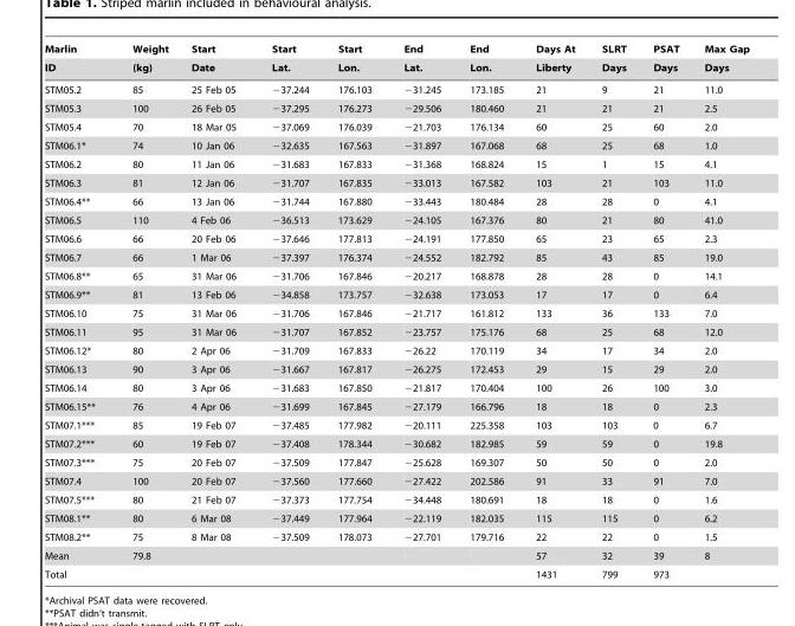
<table><thead><tr><td rowspan="2">Marlin ID</td><td rowspan="2">Weight (kg)</td><td rowspan="2">Start Date</td><td rowspan="2">Start Lat.</td><td rowspan="2">Start Lon.</td><td rowspan="2">End Lat.</td><td rowspan="2">End Lon.</td><td rowspan="2">Days At Liberty</td><td rowspan="2">SLRT Days</td><td rowspan="2">PSAT Days</td><td rowspan="2">Max Gap Days</td></tr><tr></tr></thead><tbody><tr><td>STM05.2</td><td>85</td><td>25 Feb 05</td><td>−37.244</td><td>176.103</td><td>−31.245</td><td>173.185</td><td>21</td><td>9</td><td>21</td><td>11.0</td></tr><tr><td>STM05.3</td><td>100</td><td>26 Feb 05</td><td>−37.295</td><td>176.273</td><td>−29.506</td><td>180.460</td><td>21</td><td>21</td><td>21</td><td>2.5</td></tr><tr><td>STM05.4</td><td>70</td><td>18 Mar 05</td><td>−37.069</td><td>176.039</td><td>−21.703</td><td>176.134</td><td>60</td><td>25</td><td>60</td><td>2.0</td></tr><tr><td>STM06.1*</td><td>74</td><td>10 Jan 06</td><td>−32.635</td><td>167.563</td><td>−31.897</td><td>167.068</td><td>68</td><td>25</td><td>68</td><td>1.0</td></tr><tr><td>STM06.2</td><td>80</td><td>11 Jan 06</td><td>−31.683</td><td>167.833</td><td>−31.368</td><td>168.824</td><td>15</td><td>1</td><td>15</td><td>4.1</td></tr><tr><td>STM06.3</td><td>81</td><td>12 Jan 06</td><td>−31.707</td><td>167.835</td><td>−33.013</td><td>167.582</td><td>103</td><td>21</td><td>103</td><td>11.0</td></tr><tr><td>STM06.4**</td><td>66</td><td>13 Jan 06</td><td>−31.744</td><td>167.880</td><td>−33.443</td><td>180.484</td><td>28</td><td>28</td><td>0</td><td>4.1</td></tr><tr><td>STM06.5</td><td>110</td><td>4 Feb 06</td><td>−36.513</td><td>173.629</td><td>−24.105</td><td>167.376</td><td>80</td><td>21</td><td>80</td><td>41.0</td></tr><tr><td>STM06.6</td><td>66</td><td>20 Feb 06</td><td>−37.646</td><td>177.813</td><td>−24.191</td><td>177.850</td><td>65</td><td>23</td><td>65</td><td>2.3</td></tr><tr><td>STM06.7</td><td>66</td><td>1 Mar 06</td><td>−37.397</td><td>176.374</td><td>−24.552</td><td>182.792</td><td>85</td><td>43</td><td>85</td><td>19.0</td></tr><tr><td>STM06.8**</td><td>65</td><td>31 Mar 06</td><td>−31.706</td><td>167.846</td><td>−20.217</td><td>168.878</td><td>28</td><td>28</td><td>0</td><td>14.1</td></tr><tr><td>STM06.9**</td><td>81</td><td>13 Feb 06</td><td>−34.858</td><td>173.757</td><td>−32.638</td><td>173.053</td><td>17</td><td>17</td><td>0</td><td>6.4</td></tr><tr><td>STM06.10</td><td>75</td><td>31 Mar 06</td><td>−31.706</td><td>167.846</td><td>−21.717</td><td>161.812</td><td>133</td><td>36</td><td>133</td><td>7.0</td></tr><tr><td>STM06.11</td><td>95</td><td>31 Mar 06</td><td>−31.707</td><td>167.852</td><td>−23.757</td><td>175.176</td><td>68</td><td>25</td><td>68</td><td>12.0</td></tr><tr><td>STM06.12*</td><td>80</td><td>2 Apr 06</td><td>−31.709</td><td>167.833</td><td>−26.22</td><td>170.119</td><td>34</td><td>17</td><td>34</td><td>2.0</td></tr><tr><td>STM06.13</td><td>90</td><td>3 Apr 06</td><td>−31.667</td><td>167.817</td><td>−26.275</td><td>172.453</td><td>29</td><td>15</td><td>29</td><td>2.0</td></tr><tr><td>STM06.14</td><td>80</td><td>3 Apr 06</td><td>−31.683</td><td>167.850</td><td>−21.817</td><td>170.404</td><td>100</td><td>26</td><td>100</td><td>3.0</td></tr><tr><td>STM06.15**</td><td>76</td><td>4 Apr 06</td><td>−31.699</td><td>167.845</td><td>−27.179</td><td>166.796</td><td>18</td><td>18</td><td>0</td><td>2.3</td></tr><tr><td>STM07.1***</td><td>85</td><td>19 Feb 07</td><td>−37.485</td><td>177.982</td><td>−20.111</td><td>225.358</td><td>103</td><td>103</td><td>0</td><td>6.7</td></tr><tr><td>STM07.2***</td><td>60</td><td>19 Feb 07</td><td>−37.408</td><td>178.344</td><td>−30.682</td><td>182.985</td><td>59</td><td>59</td><td>0</td><td>19.8</td></tr><tr><td>STM07.3***</td><td>75</td><td>20 Feb 07</td><td>−37.509</td><td>177.847</td><td>−25.628</td><td>169.307</td><td>50</td><td>50</td><td>0</td><td>2.0</td></tr><tr><td>STM07.4</td><td>100</td><td>20 Feb 07</td><td>−37.560</td><td>177.660</td><td>−27.422</td><td>202.586</td><td>91</td><td>33</td><td>91</td><td>7.0</td></tr><tr><td>STM07.5***</td><td>80</td><td>21 Feb 07</td><td>−37.373</td><td>177.754</td><td>−34.448</td><td>180.691</td><td>18</td><td>18</td><td>0</td><td>1.6</td></tr><tr><td>STM08.1**</td><td>80</td><td>6 Mar 08</td><td>−37.449</td><td>177.964</td><td>−22.119</td><td>182.035</td><td>115</td><td>115</td><td>0</td><td>6.2</td></tr><tr><td>STM08.2**</td><td>75</td><td>8 Mar 08</td><td>−37.509</td><td>178.073</td><td>−27.701</td><td>179.716</td><td>22</td><td>22</td><td>0</td><td>1.5</td></tr><tr><td>Mean</td><td>79.8</td><td></td><td></td><td></td><td></td><td></td><td>57</td><td>32</td><td>39</td><td>8</td></tr><tr><td>Total</td><td></td><td></td><td></td><td></td><td></td><td></td><td>1431</td><td>799</td><td>973</td><td></td></tr></tbody></table>